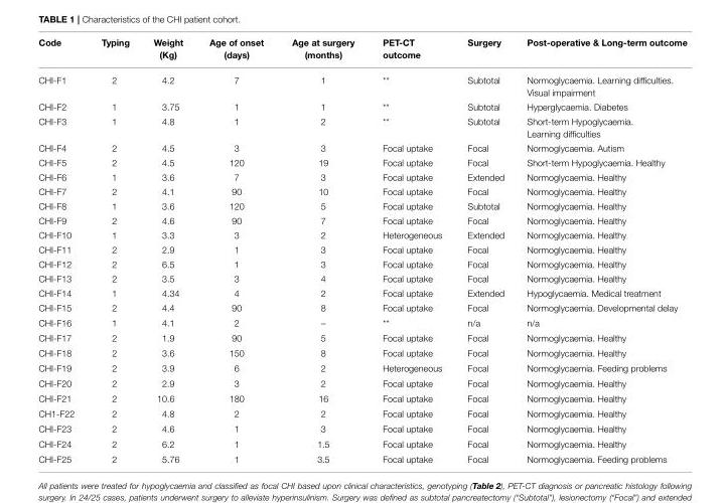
<table><thead><tr><td>Code</td><td>Typing</td><td>Weight (Kg)</td><td>Age of onset (days)</td><td>Age at surgery (months)</td><td>PET-CT outcome</td><td>Surgery</td><td>Post-operative &amp; Long-term outcome</td></tr></thead><tbody><tr><td>CHI-F1</td><td>2</td><td>4.2</td><td>7</td><td>1</td><td>**</td><td>Subtotal</td><td>Normoglycaemia. Learning difficulties. Visual impairment</td></tr><tr><td>CHI-F2</td><td>1</td><td>3.75</td><td>1</td><td>1</td><td>**</td><td>Subtotal</td><td>Hyperglycaemia. Diabetes</td></tr><tr><td>CHI-F3</td><td>1</td><td>4.8</td><td>1</td><td>2</td><td>**</td><td>Subtotal</td><td>Short-term Hypoglycaemia. Learning difficulties</td></tr><tr><td>CHI-F4</td><td>2</td><td>4.5</td><td>3</td><td>3</td><td>Focal uptake</td><td>Focal</td><td>Normoglycaemia. Autism</td></tr><tr><td>CHI-F5</td><td>2</td><td>4.5</td><td>120</td><td>19</td><td>Focal uptake</td><td>Focal</td><td>Short-term Hypoglycaemia. Healthy</td></tr><tr><td>CHI-F6</td><td>1</td><td>3.6</td><td>7</td><td>3</td><td>Focal uptake</td><td>Extended</td><td>Normoglycaemia. Healthy</td></tr><tr><td>CHI-F7</td><td>2</td><td>4.1</td><td>90</td><td>10</td><td>Focal uptake</td><td>Focal</td><td>Normoglycaemia. Healthy</td></tr><tr><td>CHI-F8</td><td>1</td><td>3.6</td><td>120</td><td>5</td><td>Focal uptake</td><td>Subtotal</td><td>Normoglycaemia. Healthy</td></tr><tr><td>CHI-F9</td><td>2</td><td>4.6</td><td>90</td><td>7</td><td>Focal uptake</td><td>Focal</td><td>Normoglycaemia. Healthy</td></tr><tr><td>CHI-F10</td><td>1</td><td>3.3</td><td>3</td><td>2</td><td>Heterogeneous</td><td>Extended</td><td>Normoglycaemia. Healthy</td></tr><tr><td>CHI-F11</td><td>2</td><td>2.9</td><td>1</td><td>3</td><td>Focal uptake</td><td>Focal</td><td>Normoglycaemia. Healthy</td></tr><tr><td>CHI-F12</td><td>2</td><td>6.5</td><td>1</td><td>3</td><td>Focal uptake</td><td>Focal</td><td>Normoglycaemia. Healthy</td></tr><tr><td>CHI-F13</td><td>2</td><td>3.5</td><td>3</td><td>4</td><td>Focal uptake</td><td>Focal</td><td>Normoglycaemia. Healthy</td></tr><tr><td>CHI-F14</td><td>1</td><td>4.34</td><td>4</td><td>2</td><td>Focal uptake</td><td>Extended</td><td>Hypoglycaemia. Medical treatment</td></tr><tr><td>CHI-F15</td><td>2</td><td>4.4</td><td>90</td><td>8</td><td>Focal uptake</td><td>Focal</td><td>Normoglycaemia. Developmental delay</td></tr><tr><td>CHI-F16</td><td>1</td><td>4.1</td><td>2</td><td>–</td><td>**</td><td>n/a</td><td>n/a</td></tr><tr><td>CHI-F17</td><td>2</td><td>1.9</td><td>90</td><td>5</td><td>Focal uptake</td><td>Focal</td><td>Normoglycaemia. Healthy</td></tr><tr><td>CHI-F18</td><td>2</td><td>3.6</td><td>150</td><td>8</td><td>Focal uptake</td><td>Focal</td><td>Normoglycaemia. Healthy</td></tr><tr><td>CHI-F19</td><td>2</td><td>3.9</td><td>6</td><td>2</td><td>Heterogeneous</td><td>Focal</td><td>Normoglycaemia. Feeding problems</td></tr><tr><td>CHI-F20</td><td>2</td><td>2.9</td><td>3</td><td>2</td><td>Focal uptake</td><td>Focal</td><td>Normoglycaemia. Healthy</td></tr><tr><td>CHI-F21</td><td>2</td><td>10.6</td><td>180</td><td>16</td><td>Focal uptake</td><td>Focal</td><td>Normoglycaemia. Healthy</td></tr><tr><td>CH1-F22</td><td>2</td><td>4.8</td><td>2</td><td>2</td><td>Focal uptake</td><td>Focal</td><td>Normoglycaemia. Healthy</td></tr><tr><td>CHI-F23</td><td>2</td><td>4.6</td><td>1</td><td>3</td><td>Focal uptake</td><td>Focal</td><td>Normoglycaemia. Healthy</td></tr><tr><td>CHI-F24</td><td>2</td><td>6.2</td><td>1</td><td>1.5</td><td>Focal uptake</td><td>Focal</td><td>Normoglycaemia. Healthy</td></tr><tr><td>CHI-F25</td><td>2</td><td>5.76</td><td>1</td><td>3.5</td><td>Focal uptake</td><td>Focal</td><td>Normoglycaemia. Feeding problems</td></tr></tbody></table>